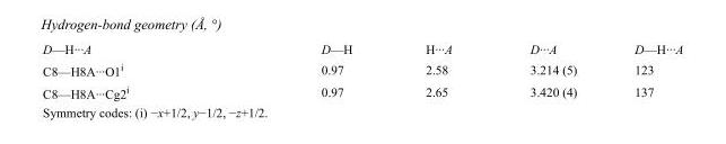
<table><tbody><tr><td>D—H···A</td><td>D—H</td><td>H···A</td><td>D···A</td><td>D—H···A</td></tr><tr><td>C8—H8A···O1<sup>i</sup></td><td>0.97</td><td>2.58</td><td>3.214 (5)</td><td>123</td></tr><tr><td>C8—H8A···Cg2<sup>i</sup></td><td>0.97</td><td>2.65</td><td>3.420 (4)</td><td>137</td></tr></tbody></table>